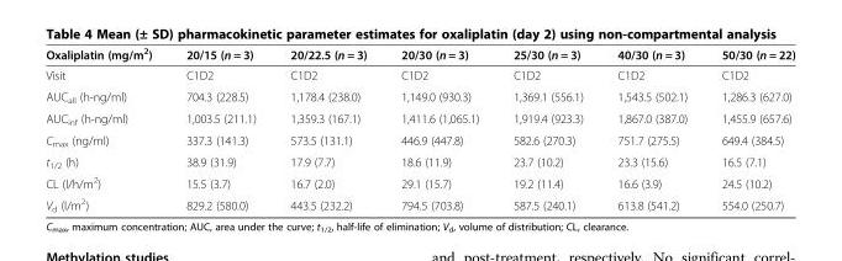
<table><thead><tr><td>Oxaliplatin (mg/m<sup>2</sup>)</td><td>20/15 (n = 3)</td><td>20/22.5 (n = 3)</td><td>20/30 (n = 3)</td><td>25/30 (n = 3)</td><td>40/30 (n = 3)</td><td>50/30 (n = 22)</td></tr></thead><tbody><tr><td>Visit</td><td>C1D2</td><td>C1D2</td><td>C1D2</td><td>C1D2</td><td>C1D2</td><td>C1D2</td></tr><tr><td>AUC<sub>all</sub> (h-ng/ml)</td><td>704.3 (228.5)</td><td>1,178.4 (238.0)</td><td>1,149.0 (930.3)</td><td>1,369.1 (556.1)</td><td>1,543.5 (502.1)</td><td>1,286.3 (627.0)</td></tr><tr><td>AUC<sub>inf</sub> (h-ng/ml)</td><td>1,003.5 (211.1)</td><td>1,359.3 (167.1)</td><td>1,411.6 (1,065.1)</td><td>1,919.4 (923.3)</td><td>1,867.0 (387.0)</td><td>1,455.9 (657.6)</td></tr><tr><td>C<sub>max</sub> (ng/ml)</td><td>337.3 (141.3)</td><td>573.5 (131.1)</td><td>446.9 (447.8)</td><td>582.6 (270.3)</td><td>751.7 (275.5)</td><td>649.4 (384.5)</td></tr><tr><td>t<sub>1/2</sub> (h)</td><td>38.9 (31.9)</td><td>17.9 (7.7)</td><td>18.6 (11.9)</td><td>23.7 (10.2)</td><td>23.3 (15.6)</td><td>16.5 (7.1)</td></tr><tr><td>CL (l/h/m<sup>2</sup>)</td><td>15.5 (3.7)</td><td>16.7 (2.0)</td><td>29.1 (15.7)</td><td>19.2 (11.4)</td><td>16.6 (3.9)</td><td>24.5 (10.2)</td></tr><tr><td>V<sub>d</sub> (l/m<sup>2</sup>)</td><td>829.2 (580.0)</td><td>443.5 (232.2)</td><td>794.5 (703.8)</td><td>587.5 (240.1)</td><td>613.8 (541.2)</td><td>554.0 (250.7)</td></tr></tbody></table>